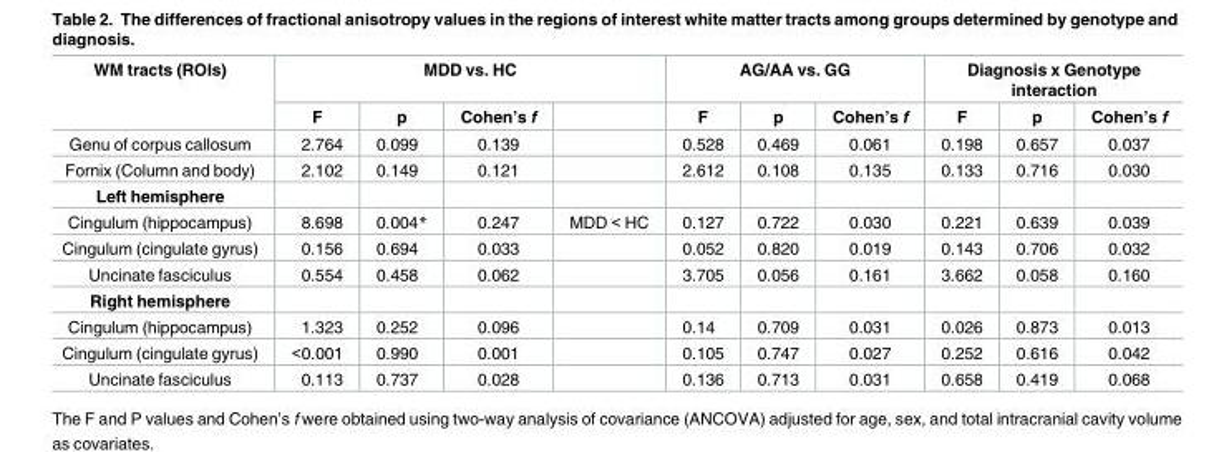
<table><thead><tr><td rowspan="2">WM tracts (ROIs)</td><td colspan="4">MDD vs. HC</td><td colspan="3">AG/AA vs. GG</td><td colspan="3">Diagnosis x Genotype interaction</td></tr><tr><td>F</td><td>p</td><td>Cohen’s f</td><td></td><td>F</td><td>p</td><td>Cohen’s f</td><td>F</td><td>p</td><td>Cohen’s f</td></tr></thead><tbody><tr><td>Genu of corpus callosum</td><td>2.764</td><td>0.099</td><td>0.139</td><td></td><td>0.528</td><td>0.469</td><td>0.061</td><td>0.198</td><td>0.657</td><td>0.037</td></tr><tr><td>Fornix (Column and body)</td><td>2.102</td><td>0.149</td><td>0.121</td><td></td><td>2.612</td><td>0.108</td><td>0.135</td><td>0.133</td><td>0.716</td><td>0.030</td></tr><tr><td colspan="11">Left hemisphere</td></tr><tr><td>Cingulum (hippocampus)</td><td>8.698</td><td>0.004*</td><td>0.247</td><td>MDD &lt; HC</td><td>0.127</td><td>0.722</td><td>0.030</td><td>0.221</td><td>0.639</td><td>0.039</td></tr><tr><td>Cingulum (cingulate gyrus)</td><td>0.156</td><td>0.694</td><td>0.033</td><td></td><td>0.052</td><td>0.820</td><td>0.019</td><td>0.143</td><td>0.706</td><td>0.032</td></tr><tr><td>Uncinate fasciculus</td><td>0.554</td><td>0.458</td><td>0.062</td><td></td><td>3.705</td><td>0.056</td><td>0.161</td><td>3.662</td><td>0.058</td><td>0.160</td></tr><tr><td colspan="11">Right hemisphere</td></tr><tr><td>Cingulum (hippocampus)</td><td>1.323</td><td>0.252</td><td>0.096</td><td></td><td>0.14</td><td>0.709</td><td>0.031</td><td>0.026</td><td>0.873</td><td>0.013</td></tr><tr><td>Cingulum (cingulate gyrus)</td><td>&lt;0.001</td><td>0.990</td><td>0.001</td><td></td><td>0.105</td><td>0.747</td><td>0.027</td><td>0.252</td><td>0.616</td><td>0.042</td></tr><tr><td>Uncinate fasciculus</td><td>0.113</td><td>0.737</td><td>0.028</td><td></td><td>0.136</td><td>0.713</td><td>0.031</td><td>0.658</td><td>0.419</td><td>0.068</td></tr></tbody></table>